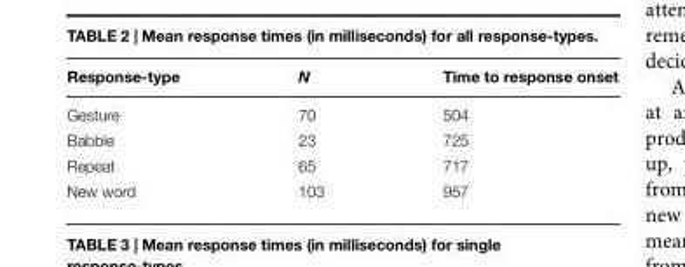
<table><thead><tr><td>Response-type</td><td>N</td><td>Time to response onset</td></tr></thead><tbody><tr><td>Gesture</td><td>70</td><td>504</td></tr><tr><td>Babble</td><td>23</td><td>725</td></tr><tr><td>Repeat</td><td>65</td><td>717</td></tr><tr><td>New word</td><td>103</td><td>957</td></tr></tbody></table>